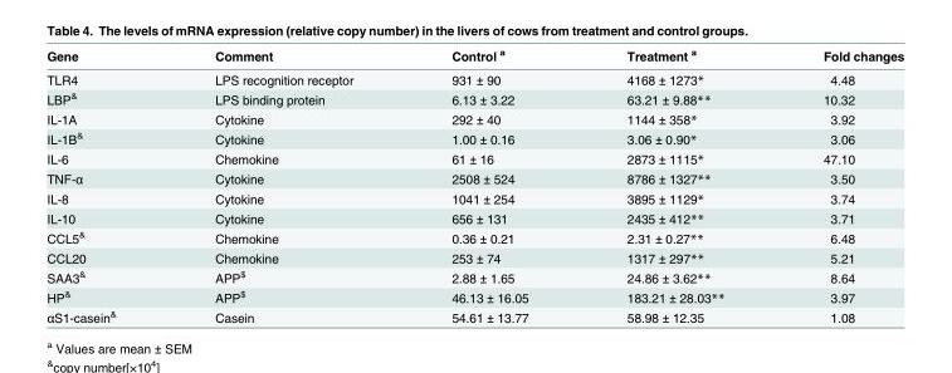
<table><thead><tr><td>Gene</td><td>Comment</td><td>Control <sup>a</sup></td><td>Treatment <sup>a</sup></td><td>Fold changes</td></tr></thead><tbody><tr><td>TLR4</td><td>LPS recognition receptor</td><td>931 ± 90</td><td>4168 ± 1273*</td><td>4.48</td></tr><tr><td>LBP<sup>&amp;</sup></td><td>LPS binding protein</td><td>6.13 ± 3.22</td><td>63.21 ± 9.88**</td><td>10.32</td></tr><tr><td>IL-1A</td><td>Cytokine</td><td>292 ± 40</td><td>1144 ± 358*</td><td>3.92</td></tr><tr><td>IL-1B<sup>&amp;</sup></td><td>Cytokine</td><td>1.00 ± 0.16</td><td>3.06 ± 0.90*</td><td>3.06</td></tr><tr><td>IL-6</td><td>Chemokine</td><td>61 ± 16</td><td>2873 ± 1115*</td><td>47.10</td></tr><tr><td>TNF-α</td><td>Cytokine</td><td>2508 ± 524</td><td>8786 ± 1327**</td><td>3.50</td></tr><tr><td>IL-8</td><td>Cytokine</td><td>1041 ± 254</td><td>3895 ± 1129*</td><td>3.74</td></tr><tr><td>IL-10</td><td>Cytokine</td><td>656 ± 131</td><td>2435 ± 412**</td><td>3.71</td></tr><tr><td>CCL5<sup>&amp;</sup></td><td>Chemokine</td><td>0.36 ± 0.21</td><td>2.31 ± 0.27**</td><td>6.48</td></tr><tr><td>CCL20</td><td>Chemokine</td><td>253 ± 74</td><td>1317 ± 297**</td><td>5.21</td></tr><tr><td>SAA3<sup>&amp;</sup></td><td>APP<sup>$</sup></td><td>2.88 ± 1.65</td><td>24.86 ± 3.62**</td><td>8.64</td></tr><tr><td>HP<sup>&amp;</sup></td><td>APP<sup>$</sup></td><td>46.13 ± 16.05</td><td>183.21 ± 28.03**</td><td>3.97</td></tr><tr><td>αS1-casein<sup>&amp;</sup></td><td>Casein</td><td>54.61 ± 13.77</td><td>58.98 ± 12.35</td><td>1.08</td></tr></tbody></table>